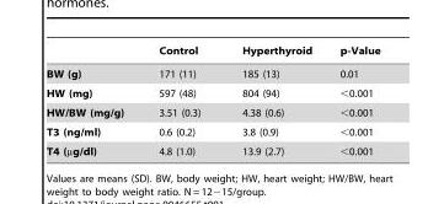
<table><thead><tr><td></td><td>Control</td><td>Hyperthyroid</td><td>p-Value</td></tr></thead><tbody><tr><td>BW (g)</td><td>171 (11)</td><td>185 (13)</td><td>0.01</td></tr><tr><td>HW (mg)</td><td>597 (48)</td><td>804 (94)</td><td>&lt;0.001</td></tr><tr><td>HW/BW (mg/g)</td><td>3.51 (0.3)</td><td>4.38 (0.6)</td><td>&lt;0.001</td></tr><tr><td>T3 (ng/ml)</td><td>0.6 (0.2)</td><td>3.8 (0.9)</td><td>&lt;0.001</td></tr><tr><td>T4 (µg/dl)</td><td>4.8 (1.0)</td><td>13.9 (2.7)</td><td>&lt;0.001</td></tr></tbody></table>